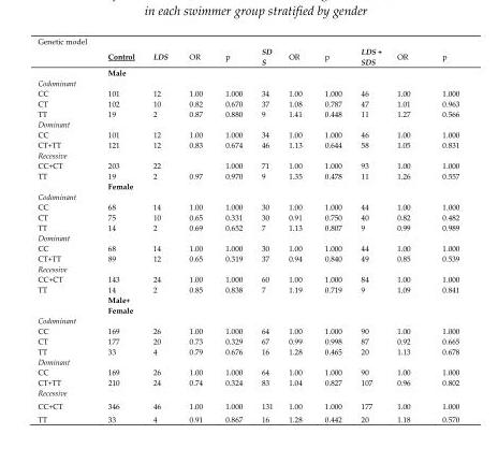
<table><thead><tr><td rowspan="2">Genetic model</td><td rowspan="2">Control</td><td rowspan="2">LDS</td><td rowspan="2">OR</td><td rowspan="2">p</td><td rowspan="2">SD S</td><td rowspan="2">OR</td><td rowspan="2">p</td><td rowspan="2">LDS + SDS</td><td rowspan="2">OR</td><td rowspan="2">p</td></tr><tr></tr></thead><tbody><tr><td></td><td>Male</td><td></td><td></td><td></td><td></td><td></td><td></td><td></td><td></td><td></td></tr><tr><td colspan="11">Codominant</td></tr><tr><td>CC</td><td>101</td><td>12</td><td>1.00</td><td>1.000</td><td>34</td><td>1.00</td><td>1.000</td><td>46</td><td>1.00</td><td>1.000</td></tr><tr><td>CT</td><td>102</td><td>10</td><td>0.82</td><td>0.670</td><td>37</td><td>1.08</td><td>0.787</td><td>47</td><td>1.01</td><td>0.963</td></tr><tr><td>TT</td><td>19</td><td>2</td><td>0.87</td><td>0.880</td><td>9</td><td>1.41</td><td>0.448</td><td>11</td><td>1.27</td><td>0.566</td></tr><tr><td colspan="11">Dominant</td></tr><tr><td>CC</td><td>101</td><td>12</td><td>1.00</td><td>1.000</td><td>34</td><td>1.00</td><td>1.000</td><td>46</td><td>1.00</td><td>1.000</td></tr><tr><td>CT+TT</td><td>121</td><td>12</td><td>0.83</td><td>0.674</td><td>46</td><td>1.13</td><td>0.644</td><td>58</td><td>1.05</td><td>0.831</td></tr><tr><td colspan="11">Recessive</td></tr><tr><td>CC+CT</td><td>203</td><td>22</td><td></td><td>1.000</td><td>71</td><td>1.00</td><td>1.000</td><td>93</td><td>1.00</td><td>1.000</td></tr><tr><td rowspan="2">TT</td><td>19</td><td>2</td><td>0.97</td><td>0.970</td><td>9</td><td>1.35</td><td>0.478</td><td>11</td><td>1.26</td><td>0.557</td></tr><tr><td>Female</td><td></td><td></td><td></td><td></td><td></td><td></td><td></td><td></td><td></td></tr><tr><td colspan="11">Codominant</td></tr><tr><td>CC</td><td>68</td><td>14</td><td>1.00</td><td>1.000</td><td>30</td><td>1.00</td><td>1.000</td><td>44</td><td>1.00</td><td>1.000</td></tr><tr><td>CT</td><td>75</td><td>10</td><td>0.65</td><td>0.331</td><td>30</td><td>0.91</td><td>0.750</td><td>40</td><td>0.82</td><td>0.482</td></tr><tr><td>TT</td><td>14</td><td>2</td><td>0.69</td><td>0.652</td><td>7</td><td>1.13</td><td>0.807</td><td>9</td><td>0.99</td><td>0.989</td></tr><tr><td colspan="11">Dominant</td></tr><tr><td>CC</td><td>68</td><td>14</td><td>1.00</td><td>1.000</td><td>30</td><td>1.00</td><td>1.000</td><td>44</td><td>1.00</td><td>1.000</td></tr><tr><td>CT+TT</td><td>89</td><td>12</td><td>0.65</td><td>0.319</td><td>37</td><td>0.94</td><td>0.840</td><td>49</td><td>0.85</td><td>0.539</td></tr><tr><td colspan="11">Recessive</td></tr><tr><td>CC+CT</td><td>143</td><td>24</td><td>1.00</td><td>1.000</td><td>60</td><td>1.00</td><td>1.000</td><td>84</td><td>1.00</td><td>1.000</td></tr><tr><td rowspan="2">TT</td><td>14</td><td>2</td><td>0.85</td><td>0.838</td><td>7</td><td>1.19</td><td>0.719</td><td>9</td><td>1.09</td><td>0.841</td></tr><tr><td>Male+ Female</td><td></td><td></td><td></td><td></td><td></td><td></td><td></td><td></td><td></td></tr><tr><td colspan="11">Codominant</td></tr><tr><td>CC</td><td>169</td><td>26</td><td>1.00</td><td>1.000</td><td>64</td><td>1.00</td><td>1.000</td><td>90</td><td>1.00</td><td>1.000</td></tr><tr><td>CT</td><td>177</td><td>20</td><td>0.73</td><td>0.329</td><td>67</td><td>0.99</td><td>0.998</td><td>87</td><td>0.92</td><td>0.665</td></tr><tr><td>TT</td><td>33</td><td>4</td><td>0.79</td><td>0.676</td><td>16</td><td>1.28</td><td>0.465</td><td>20</td><td>1.13</td><td>0.678</td></tr><tr><td colspan="11">Dominant</td></tr><tr><td>CC</td><td>169</td><td>26</td><td>1.00</td><td>1.000</td><td>64</td><td>1.00</td><td>1.000</td><td>90</td><td>1.00</td><td>1.000</td></tr><tr><td>CT+TT</td><td>210</td><td>24</td><td>0.74</td><td>0.324</td><td>83</td><td>1.04</td><td>0.827</td><td>107</td><td>0.96</td><td>0.802</td></tr><tr><td colspan="11">Recessive</td></tr><tr><td>CC+CT</td><td>346</td><td>46</td><td>1.00</td><td>1.000</td><td>131</td><td>1.00</td><td>1.000</td><td>177</td><td>1.00</td><td>1.000</td></tr><tr><td>TT</td><td>33</td><td>4</td><td>0.91</td><td>0.867</td><td>16</td><td>1.28</td><td>0.442</td><td>20</td><td>1.18</td><td>0.570</td></tr></tbody></table>